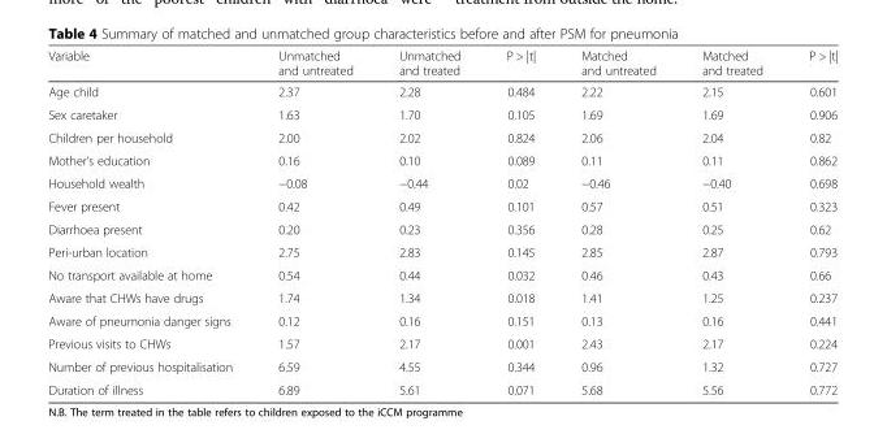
<table><thead><tr><td>Variable</td><td>Unmatched and untreated</td><td>Unmatched and treated</td><td>P &gt; |t|</td><td>Matched and untreated</td><td>Matched and treated</td><td>P &gt; |t|</td></tr></thead><tbody><tr><td>Age child</td><td>2.37</td><td>2.28</td><td>0.484</td><td>2.22</td><td>2.15</td><td>0.601</td></tr><tr><td>Sex caretaker</td><td>1.63</td><td>1.70</td><td>0.105</td><td>1.69</td><td>1.69</td><td>0.906</td></tr><tr><td>Children per household</td><td>2.00</td><td>2.02</td><td>0.824</td><td>2.06</td><td>2.04</td><td>0.82</td></tr><tr><td>Mother’s education</td><td>0.16</td><td>0.10</td><td>0.089</td><td>0.11</td><td>0.11</td><td>0.862</td></tr><tr><td>Household wealth</td><td>−0.08</td><td>−0.44</td><td>0.02</td><td>−0.46</td><td>−0.40</td><td>0.698</td></tr><tr><td>Fever present</td><td>0.42</td><td>0.49</td><td>0.101</td><td>0.57</td><td>0.51</td><td>0.323</td></tr><tr><td>Diarrhoea present</td><td>0.20</td><td>0.23</td><td>0.356</td><td>0.28</td><td>0.25</td><td>0.62</td></tr><tr><td>Peri-urban location</td><td>2.75</td><td>2.83</td><td>0.145</td><td>2.85</td><td>2.87</td><td>0.793</td></tr><tr><td>No transport available at home</td><td>0.54</td><td>0.44</td><td>0.032</td><td>0.46</td><td>0.43</td><td>0.66</td></tr><tr><td>Aware that CHWs have drugs</td><td>1.74</td><td>1.34</td><td>0.018</td><td>1.41</td><td>1.25</td><td>0.237</td></tr><tr><td>Aware of pneumonia danger signs</td><td>0.12</td><td>0.16</td><td>0.151</td><td>0.13</td><td>0.16</td><td>0.441</td></tr><tr><td>Previous visits to CHWs</td><td>1.57</td><td>2.17</td><td>0.001</td><td>2.43</td><td>2.17</td><td>0.224</td></tr><tr><td>Number of previous hospitalisation</td><td>6.59</td><td>4.55</td><td>0.344</td><td>0.96</td><td>1.32</td><td>0.727</td></tr><tr><td>Duration of illness</td><td>6.89</td><td>5.61</td><td>0.071</td><td>5.68</td><td>5.56</td><td>0.772</td></tr></tbody></table>